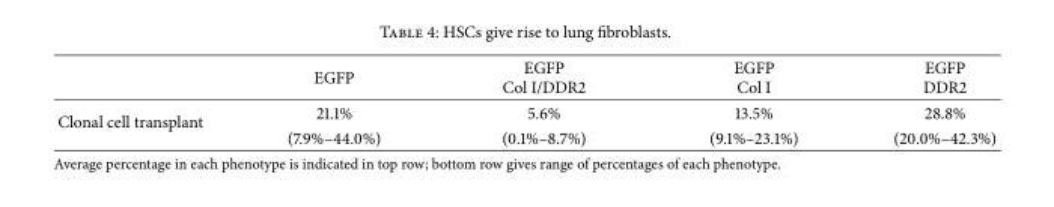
<table><thead><tr><td></td><td>EGFP</td><td>EGFP Col I/DDR2</td><td>EGFP Col I</td><td>EGFP DDR2</td></tr></thead><tbody><tr><td rowspan="2">Clonal cell transplant</td><td>21.1%</td><td>5.6%</td><td>13.5%</td><td>28.8%</td></tr><tr><td>(7.9%–44.0%)</td><td>(0.1%–8.7%)</td><td>(9.1%–23.1%)</td><td>(20.0%–42.3%)</td></tr></tbody></table>